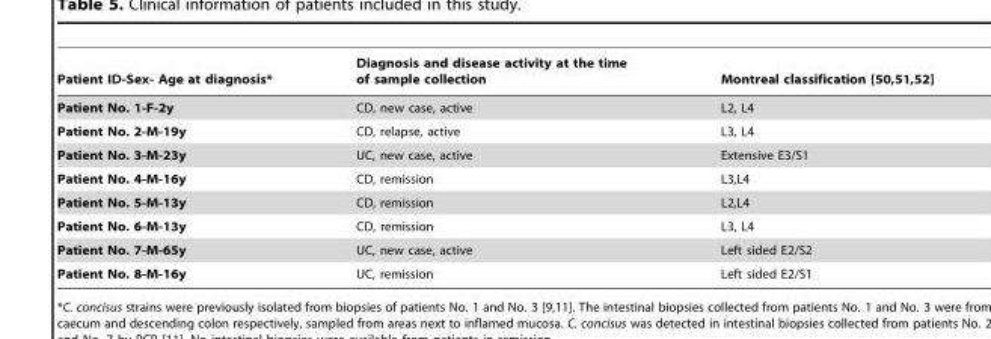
<table><thead><tr><td>Patient ID-Sex- Age at diagnosis*</td><td>Diagnosis and disease activity at the time of sample collection</td><td>Montreal classification [50,51,52]</td></tr></thead><tbody><tr><td>Patient No. 1-F-2y</td><td>CD, new case, active</td><td>L2, L4</td></tr><tr><td>Patient No. 2-M-19y</td><td>CD, relapse, active</td><td>L3, L4</td></tr><tr><td>Patient No. 3-M-23y</td><td>UC, new case, active</td><td>Extensive E3/S1</td></tr><tr><td>Patient No. 4-M-16y</td><td>CD, remission</td><td>L3,L4</td></tr><tr><td>Patient No. 5-M-13y</td><td>CD, remission</td><td>L2,L4</td></tr><tr><td>Patient No. 6-M-13y</td><td>CD, remission</td><td>L3, L4</td></tr><tr><td>Patient No. 7-M-65y</td><td>UC, new case, active</td><td>Left sided E2/S2</td></tr><tr><td>Patient No. 8-M-16y</td><td>UC, remission</td><td>Left sided E2/S1</td></tr></tbody></table>